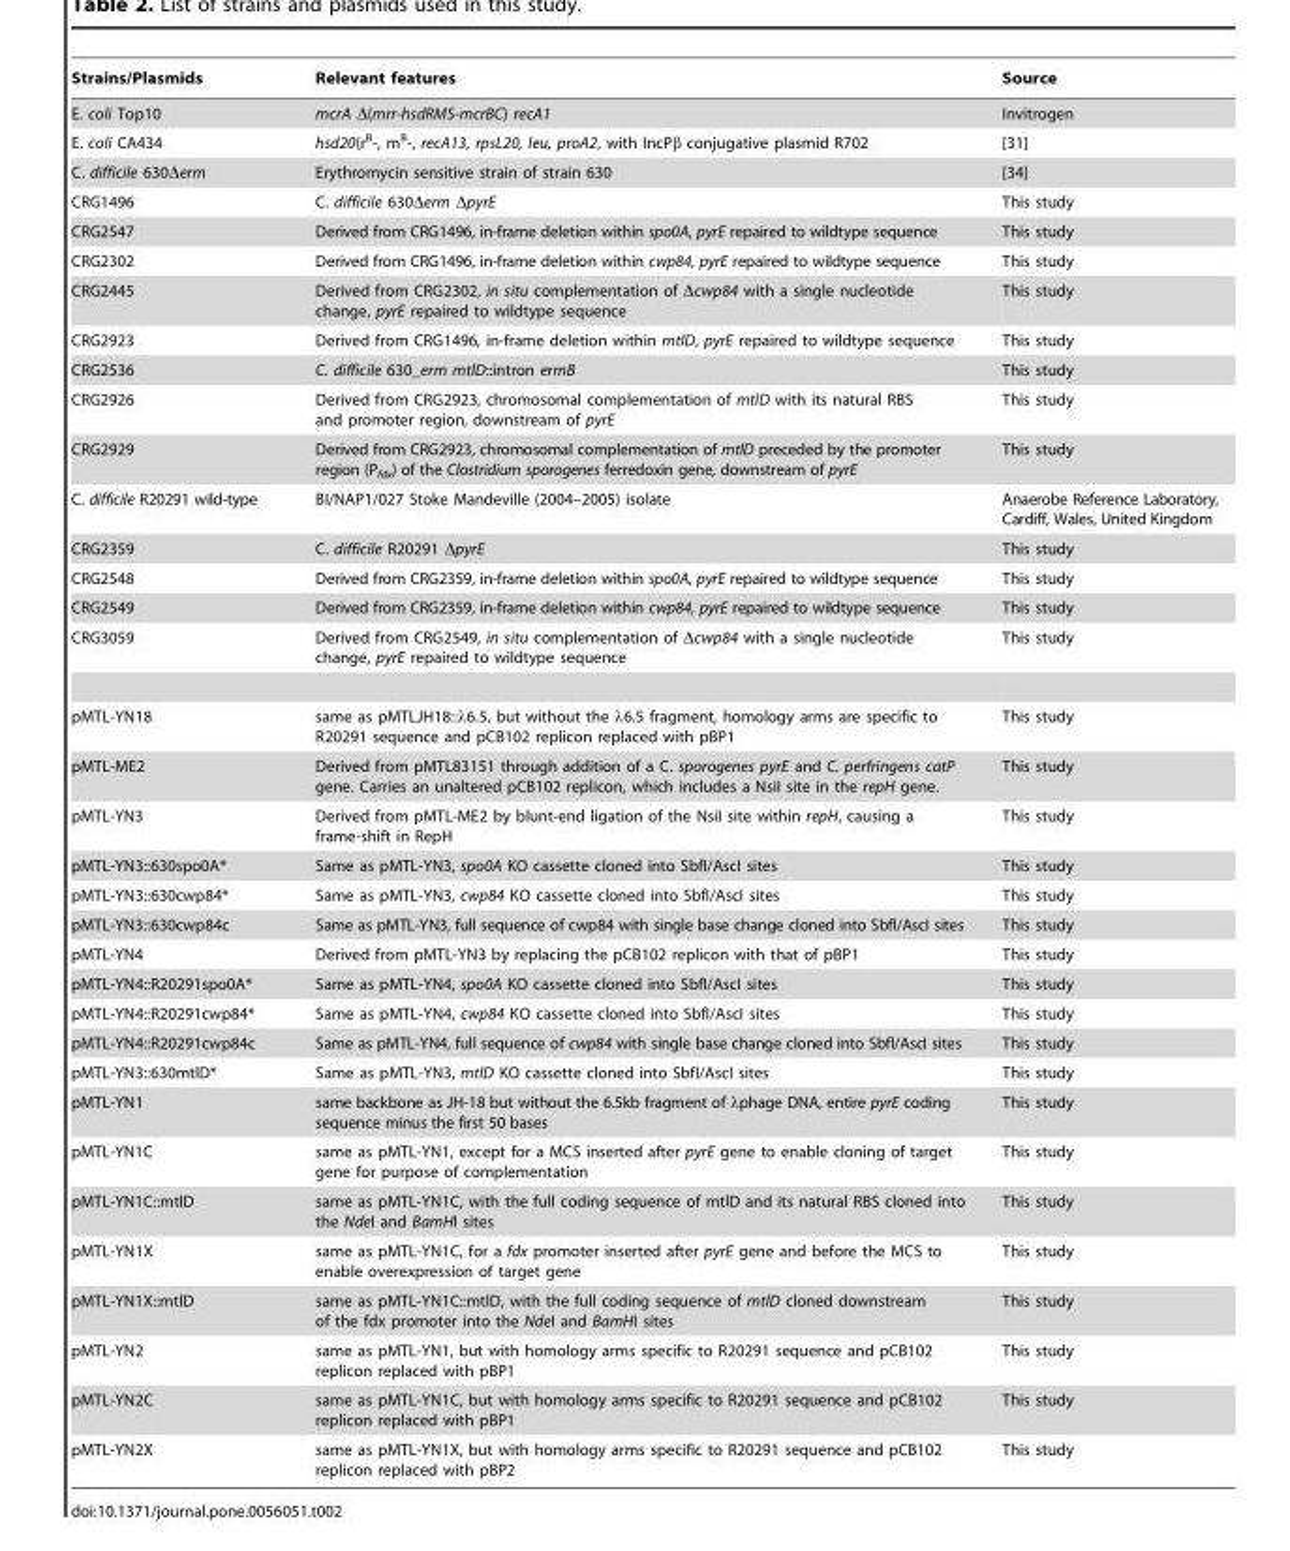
<table><thead><tr><td>Strains/Plasmids</td><td>Relevant features</td><td>Source</td></tr></thead><tbody><tr><td>E. coli Top10</td><td>mcrA Δ(mrr-hsdRMS-mcrBC) recA1</td><td>Invitrogen</td></tr><tr><td>E. coli CA434</td><td>hsd20(r<sup>B</sup>-, m<sup>B</sup>-, recA13, rpsL20, leu, proA2, with IncPβ conjugative plasmid R702</td><td>[31]</td></tr><tr><td>C. difficile 630Δerm</td><td>Erythromycin sensitive strain of strain 630</td><td>[34]</td></tr><tr><td>CRG1496</td><td>C. difficile 630Δerm ΔpyrE</td><td>This study</td></tr><tr><td>CRG2547</td><td>Derived from CRG1496, in-frame deletion within spo0A, pyrE repaired to wildtype sequence</td><td>This study</td></tr><tr><td>CRG2302</td><td>Derived from CRG1496, in-frame deletion within cwp84, pyrE repaired to wildtype sequence</td><td>This study</td></tr><tr><td>CRG2445</td><td>Derived from CRG2302, in situ complementation of Δcwp84 with a single nucleotide change, pyrE repaired to wildtype sequence</td><td>This study</td></tr><tr><td>CRG2923</td><td>Derived from CRG1496, in-frame deletion within mtlD, pyrE repaired to wildtype sequence</td><td>This study</td></tr><tr><td>CRG2536</td><td>C. difficile 630_erm mtlD::intron ermB</td><td>This study</td></tr><tr><td>CRG2926</td><td>Derived from CRG2923, chromosomal complementation of mtlD with its natural RBS and promoter region, downstream of pyrE</td><td>This study</td></tr><tr><td>CRG2929</td><td>Derived from CRG2923, chromosomal complementation of mtlD preceded by the promoter region (P<sub>fdx</sub>) of the Clostridium sporogenes ferredoxin gene, downstream of pyrE</td><td>This study</td></tr><tr><td>C. difficile R20291 wild-type</td><td>BI/NAP1/027 Stoke Mandeville (2004–2005) isolate</td><td>Anaerobe Reference Laboratory, Cardiff, Wales, United Kingdom</td></tr><tr><td>CRG2359</td><td>C. difficile R20291 ΔpyrE</td><td>This study</td></tr><tr><td>CRG2548</td><td>Derived from CRG2359, in-frame deletion within spo0A, pyrE repaired to wildtype sequence</td><td>This study</td></tr><tr><td>CRG2549</td><td>Derived from CRG2359, in-frame deletion within cwp84, pyrE repaired to wildtype sequence</td><td>This study</td></tr><tr><td>CRG3059</td><td>Derived from CRG2549, in situ complementation of Δcwp84 with a single nucleotide change, pyrE repaired to wildtype sequence</td><td>This study</td></tr><tr><td>pMTL-YN18</td><td>same as pMTLJH18::λ6.5, but without the λ6.5 fragment, homology arms are specific to R20291 sequence and pCB102 replicon replaced with pBP1</td><td>This study</td></tr><tr><td>pMTL-ME2</td><td>Derived from pMTL83151 through addition of a C. sporogenes pyrE and C. perfringens catP gene. Carries an unaltered pCB102 replicon, which includes a NsiI site in the repH gene.</td><td>This study</td></tr><tr><td>pMTL-YN3</td><td>Derived from pMTL-ME2 by blunt-end ligation of the NsiI site within repH, causing a frame-shift in RepH</td><td>This study</td></tr><tr><td>pMTL-YN3::630spo0A*</td><td>Same as pMTL-YN3, spo0A KO cassette cloned into SbfI/AscI sites</td><td>This study</td></tr><tr><td>pMTL-YN3::630cwp84*</td><td>Same as pMTL-YN3, cwp84 KO cassette cloned into SbfI/AscI sites</td><td>This study</td></tr><tr><td>pMTL-YN3::630cwp84c</td><td>Same as pMTL-YN3, full sequence of cwp84 with single base change cloned into SbfI/AscI sites</td><td>This study</td></tr><tr><td>pMTL-YN4</td><td>Derived from pMTL-YN3 by replacing the pCB102 replicon with that of pBP1</td><td>This study</td></tr><tr><td>pMTL-YN4::R20291spo0A*</td><td>Same as pMTL-YN4, spo0A KO cassette cloned into SbfI/AscI sites</td><td>This study</td></tr><tr><td>pMTL-YN4::R20291cwp84*</td><td>Same as pMTL-YN4, cwp84 KO cassette cloned into SbfI/AscI sites</td><td>This study</td></tr><tr><td>pMTL-YN4::R20291cwp84c</td><td>Same as pMTL-YN4, full sequence of cwp84 with single base change cloned into SbfI/AscI sites</td><td>This study</td></tr><tr><td>pMTL-YN3::630mtlD*</td><td>Same as pMTL-YN3, mtlD KO cassette cloned into SbfI/AscI sites</td><td>This study</td></tr><tr><td>pMTL-YN1</td><td>same backbone as JH-18 but without the 6.5kb fragment of λphage DNA, entire pyrE coding sequence minus the first 50 bases</td><td>This study</td></tr><tr><td>pMTL-YN1C</td><td>same as pMTL-YN1, except for a MCS inserted after pyrE gene to enable cloning of target gene for purpose of complementation</td><td>This study</td></tr><tr><td>pMTL-YN1C::mtlD</td><td>same as pMTL-YN1C, with the full coding sequence of mtlD and its natural RBS cloned into the NdeI and BamHI sites</td><td>This study</td></tr><tr><td>pMTL-YN1X</td><td>same as pMTL-YN1C, for a fdx promoter inserted after pyrE gene and before the MCS to enable overexpression of target gene</td><td>This study</td></tr><tr><td>pMTL-YN1X::mtlD</td><td>same as pMTL-YN1C::mtlD, with the full coding sequence of mtlD cloned downstream of the fdx promoter into the NdeI and BamHI sites</td><td>This study</td></tr><tr><td>pMTL-YN2</td><td>same as pMTL-YN1, but with homology arms specific to R20291 sequence and pCB102 replicon replaced with pBP1</td><td>This study</td></tr><tr><td>pMTL-YN2C</td><td>same as pMTL-YN1C, but with homology arms specific to R20291 sequence and pCB102 replicon replaced with pBP1</td><td>This study</td></tr><tr><td>pMTL-YN2X</td><td>same as pMTL-YN1X, but with homology arms specific to R20291 sequence and pCB102 replicon replaced with pBP2</td><td>This study</td></tr></tbody></table>